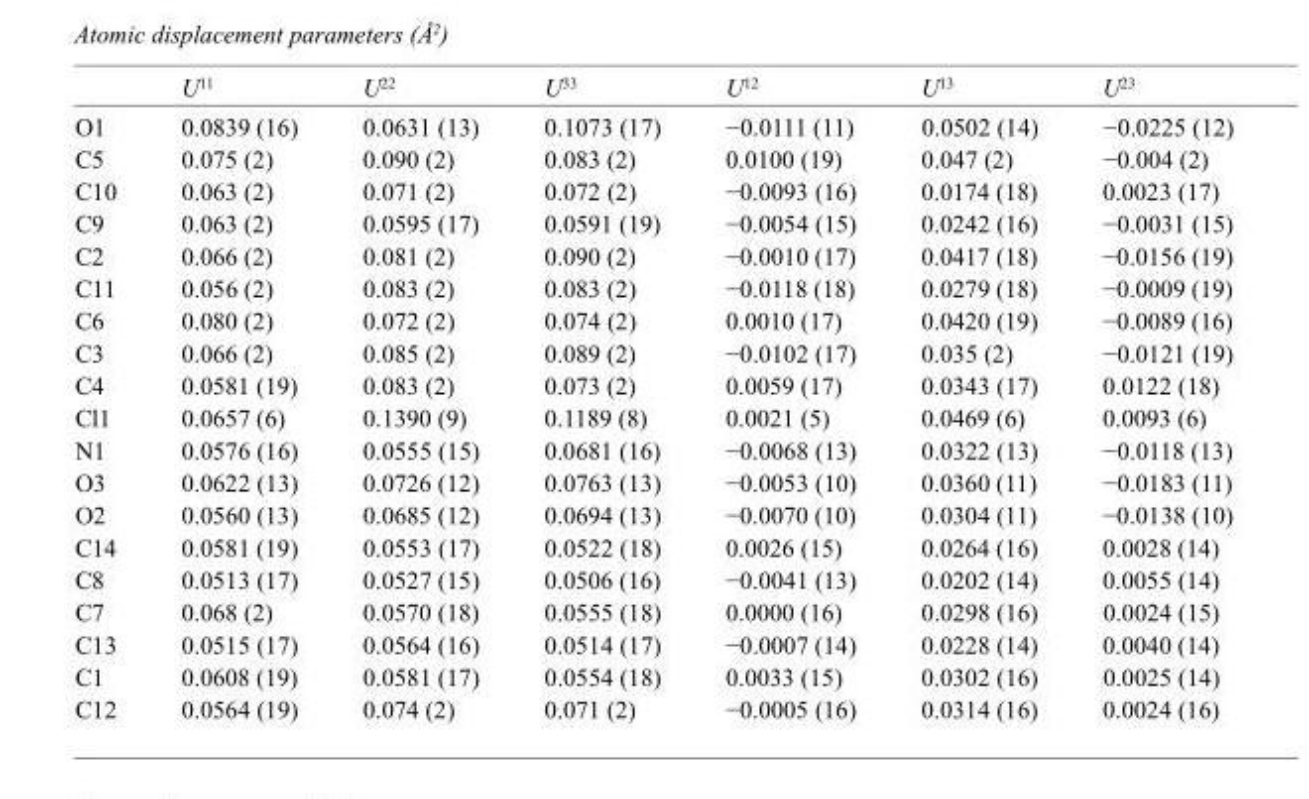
<table><thead><tr><td></td><td>U<sup>11</sup></td><td>U<sup>22</sup></td><td>U<sup>33</sup></td><td>U<sup>12</sup></td><td>U<sup>13</sup></td><td>U<sup>23</sup></td></tr></thead><tbody><tr><td>O1</td><td>0.0839 (16)</td><td>0.0631 (13)</td><td>0.1073 (17)</td><td>−0.0111 (11)</td><td>0.0502 (14)</td><td>−0.0225 (12)</td></tr><tr><td>C5</td><td>0.075 (2)</td><td>0.090 (2)</td><td>0.083 (2)</td><td>0.0100 (19)</td><td>0.047 (2)</td><td>−0.004 (2)</td></tr><tr><td>C10</td><td>0.063 (2)</td><td>0.071 (2)</td><td>0.072 (2)</td><td>−0.0093 (16)</td><td>0.0174 (18)</td><td>0.0023 (17)</td></tr><tr><td>C9</td><td>0.063 (2)</td><td>0.0595 (17)</td><td>0.0591 (19)</td><td>−0.0054 (15)</td><td>0.0242 (16)</td><td>−0.0031 (15)</td></tr><tr><td>C2</td><td>0.066 (2)</td><td>0.081 (2)</td><td>0.090 (2)</td><td>−0.0010 (17)</td><td>0.0417 (18)</td><td>−0.0156 (19)</td></tr><tr><td>C11</td><td>0.056 (2)</td><td>0.083 (2)</td><td>0.083 (2)</td><td>−0.0118 (18)</td><td>0.0279 (18)</td><td>−0.0009 (19)</td></tr><tr><td>C6</td><td>0.080 (2)</td><td>0.072 (2)</td><td>0.074 (2)</td><td>0.0010 (17)</td><td>0.0420 (19)</td><td>−0.0089 (16)</td></tr><tr><td>C3</td><td>0.066 (2)</td><td>0.085 (2)</td><td>0.089 (2)</td><td>−0.0102 (17)</td><td>0.035 (2)</td><td>−0.0121 (19)</td></tr><tr><td>C4</td><td>0.0581 (19)</td><td>0.083 (2)</td><td>0.073 (2)</td><td>0.0059 (17)</td><td>0.0343 (17)</td><td>0.0122 (18)</td></tr><tr><td>Cl1</td><td>0.0657 (6)</td><td>0.1390 (9)</td><td>0.1189 (8)</td><td>0.0021 (5)</td><td>0.0469 (6)</td><td>0.0093 (6)</td></tr><tr><td>N1</td><td>0.0576 (16)</td><td>0.0555 (15)</td><td>0.0681 (16)</td><td>−0.0068 (13)</td><td>0.0322 (13)</td><td>−0.0118 (13)</td></tr><tr><td>O3</td><td>0.0622 (13)</td><td>0.0726 (12)</td><td>0.0763 (13)</td><td>−0.0053 (10)</td><td>0.0360 (11)</td><td>−0.0183 (11)</td></tr><tr><td>O2</td><td>0.0560 (13)</td><td>0.0685 (12)</td><td>0.0694 (13)</td><td>−0.0070 (10)</td><td>0.0304 (11)</td><td>−0.0138 (10)</td></tr><tr><td>C14</td><td>0.0581 (19)</td><td>0.0553 (17)</td><td>0.0522 (18)</td><td>0.0026 (15)</td><td>0.0264 (16)</td><td>0.0028 (14)</td></tr><tr><td>C8</td><td>0.0513 (17)</td><td>0.0527 (15)</td><td>0.0506 (16)</td><td>−0.0041 (13)</td><td>0.0202 (14)</td><td>0.0055 (14)</td></tr><tr><td>C7</td><td>0.068 (2)</td><td>0.0570 (18)</td><td>0.0555 (18)</td><td>0.0000 (16)</td><td>0.0298 (16)</td><td>0.0024 (15)</td></tr><tr><td>C13</td><td>0.0515 (17)</td><td>0.0564 (16)</td><td>0.0514 (17)</td><td>−0.0007 (14)</td><td>0.0228 (14)</td><td>0.0040 (14)</td></tr><tr><td>C1</td><td>0.0608 (19)</td><td>0.0581 (17)</td><td>0.0554 (18)</td><td>0.0033 (15)</td><td>0.0302 (16)</td><td>0.0025 (14)</td></tr><tr><td>C12</td><td>0.0564 (19)</td><td>0.074 (2)</td><td>0.071 (2)</td><td>−0.0005 (16)</td><td>0.0314 (16)</td><td>0.0024 (16)</td></tr></tbody></table>